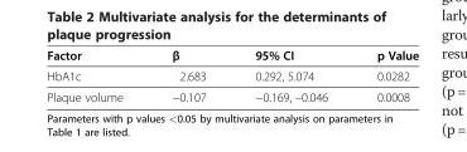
<table><thead><tr><td>Factor</td><td>β</td><td>95% CI</td><td>p Value</td></tr></thead><tbody><tr><td>HbA1c</td><td>2.683</td><td>0.292, 5.074</td><td>0.0282</td></tr><tr><td>Plaque volume</td><td>−0.107</td><td>−0.169, –0.046</td><td>0.0008</td></tr></tbody></table>